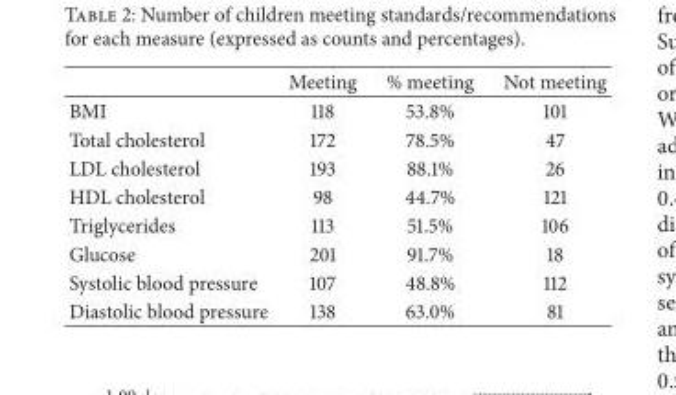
<table><thead><tr><td></td><td>Meeting</td><td>% meeting</td><td>Not meeting</td></tr></thead><tbody><tr><td>BMI</td><td>118</td><td>53.8%</td><td>101</td></tr><tr><td>Total cholesterol</td><td>172</td><td>78.5%</td><td>47</td></tr><tr><td>LDL cholesterol</td><td>193</td><td>88.1%</td><td>26</td></tr><tr><td>HDL cholesterol</td><td>98</td><td>44.7%</td><td>121</td></tr><tr><td>Triglycerides</td><td>113</td><td>51.5%</td><td>106</td></tr><tr><td>Glucose</td><td>201</td><td>91.7%</td><td>18</td></tr><tr><td>Systolic blood pressure</td><td>107</td><td>48.8%</td><td>112</td></tr><tr><td>Diastolic blood pressure</td><td>138</td><td>63.0%</td><td>81</td></tr></tbody></table>